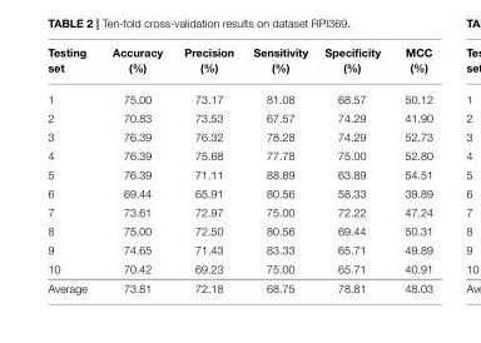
<table><thead><tr><td>Testing set</td><td>Accuracy (%)</td><td>Precision (%)</td><td>Sensitivity (%)</td><td>Specificity (%)</td><td>MCC (%)</td></tr></thead><tbody><tr><td>1</td><td>75.00</td><td>73.17</td><td>81.08</td><td>68.57</td><td>50.12</td></tr><tr><td>2</td><td>70.83</td><td>73.53</td><td>67.57</td><td>74.29</td><td>41.90</td></tr><tr><td>3</td><td>76.39</td><td>76.32</td><td>78.28</td><td>74.29</td><td>52.73</td></tr><tr><td>4</td><td>76.39</td><td>75.68</td><td>77.78</td><td>75.00</td><td>52.80</td></tr><tr><td>5</td><td>76.39</td><td>71.11</td><td>88.89</td><td>63.89</td><td>54.51</td></tr><tr><td>6</td><td>69.44</td><td>65.91</td><td>80.56</td><td>58.33</td><td>39.89</td></tr><tr><td>7</td><td>73.61</td><td>72.97</td><td>75.00</td><td>72.22</td><td>47.24</td></tr><tr><td>8</td><td>75.00</td><td>72.50</td><td>80.56</td><td>69.44</td><td>50.31</td></tr><tr><td>9</td><td>74.65</td><td>71.43</td><td>83.33</td><td>65.71</td><td>49.89</td></tr><tr><td>10</td><td>70.42</td><td>69.23</td><td>75.00</td><td>65.71</td><td>40.91</td></tr><tr><td>Average</td><td>73.81</td><td>72.18</td><td>68.75</td><td>78.81</td><td>48.03</td></tr></tbody></table>